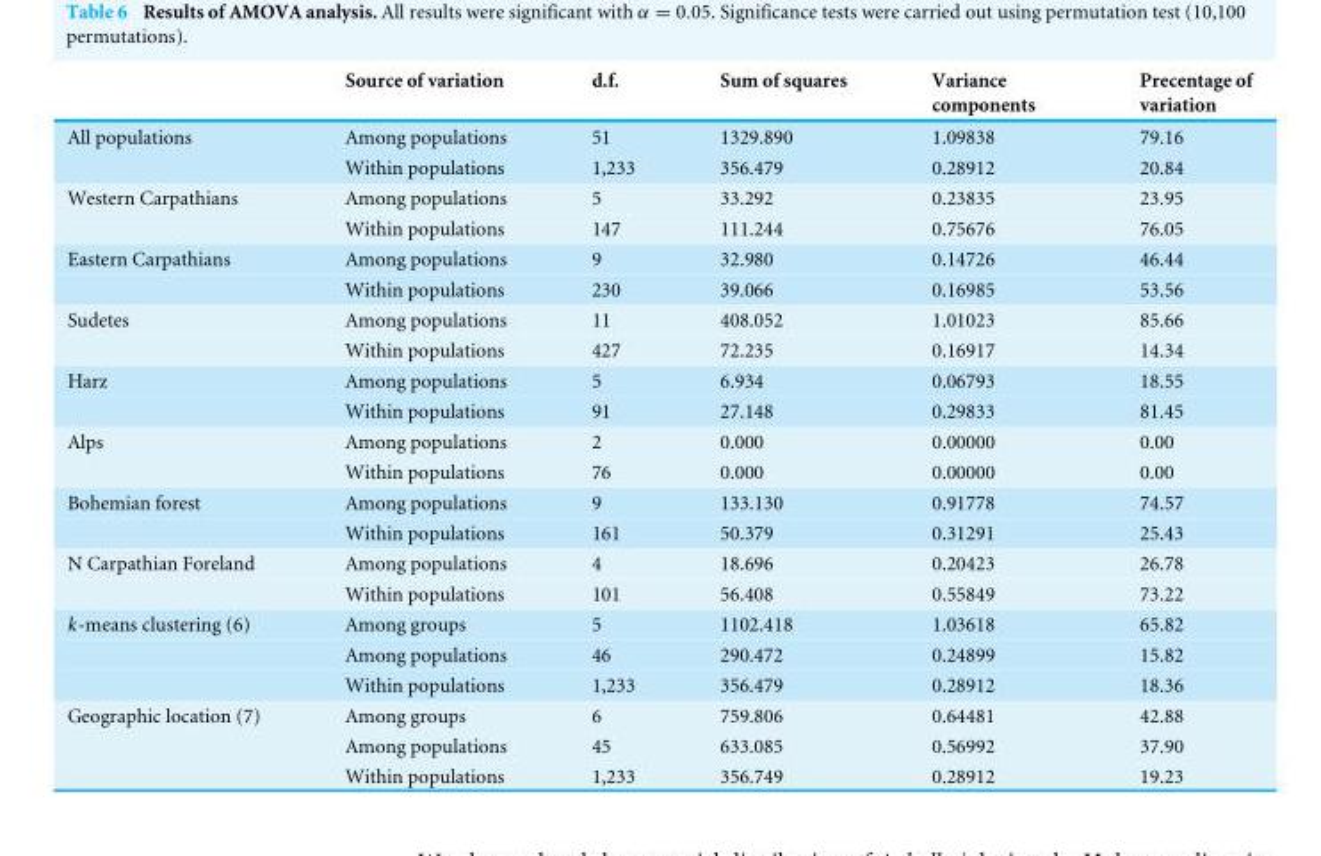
<table><thead><tr><td></td><td>Source of variation</td><td>d.f.</td><td>Sum of squares</td><td>Variance components</td><td>Precentage of variation</td></tr></thead><tbody><tr><td rowspan="2">All populations</td><td>Among populations</td><td>51</td><td>1329.890</td><td>1.09838</td><td>79.16</td></tr><tr><td>Within populations</td><td>1,233</td><td>356.479</td><td>0.28912</td><td>20.84</td></tr><tr><td rowspan="2">Western Carpathians</td><td>Among populations</td><td>5</td><td>33.292</td><td>0.23835</td><td>23.95</td></tr><tr><td>Within populations</td><td>147</td><td>111.244</td><td>0.75676</td><td>76.05</td></tr><tr><td rowspan="2">Eastern Carpathians</td><td>Among populations</td><td>9</td><td>32.980</td><td>0.14726</td><td>46.44</td></tr><tr><td>Within populations</td><td>230</td><td>39.066</td><td>0.16985</td><td>53.56</td></tr><tr><td rowspan="2">Sudetes</td><td>Among populations</td><td>11</td><td>408.052</td><td>1.01023</td><td>85.66</td></tr><tr><td>Within populations</td><td>427</td><td>72.235</td><td>0.16917</td><td>14.34</td></tr><tr><td rowspan="2">Harz</td><td>Among populations</td><td>5</td><td>6.934</td><td>0.06793</td><td>18.55</td></tr><tr><td>Within populations</td><td>91</td><td>27.148</td><td>0.29833</td><td>81.45</td></tr><tr><td rowspan="2">Alps</td><td>Among populations</td><td>2</td><td>0.000</td><td>0.00000</td><td>0.00</td></tr><tr><td>Within populations</td><td>76</td><td>0.000</td><td>0.00000</td><td>0.00</td></tr><tr><td rowspan="2">Bohemian forest</td><td>Among populations</td><td>9</td><td>133.130</td><td>0.91778</td><td>74.57</td></tr><tr><td>Within populations</td><td>161</td><td>50.379</td><td>0.31291</td><td>25.43</td></tr><tr><td rowspan="2">N Carpathian Foreland</td><td>Among populations</td><td>4</td><td>18.696</td><td>0.20423</td><td>26.78</td></tr><tr><td>Within populations</td><td>101</td><td>56.408</td><td>0.55849</td><td>73.22</td></tr><tr><td rowspan="3">k-means clustering (6)</td><td>Among groups</td><td>5</td><td>1102.418</td><td>1.03618</td><td>65.82</td></tr><tr><td>Among populations</td><td>46</td><td>290.472</td><td>0.24899</td><td>15.82</td></tr><tr><td>Within populations</td><td>1,233</td><td>356.479</td><td>0.28912</td><td>18.36</td></tr><tr><td rowspan="3">Geographic location (7)</td><td>Among groups</td><td>6</td><td>759.806</td><td>0.64481</td><td>42.88</td></tr><tr><td>Among populations</td><td>45</td><td>633.085</td><td>0.56992</td><td>37.90</td></tr><tr><td>Within populations</td><td>1,233</td><td>356.749</td><td>0.28912</td><td>19.23</td></tr></tbody></table>